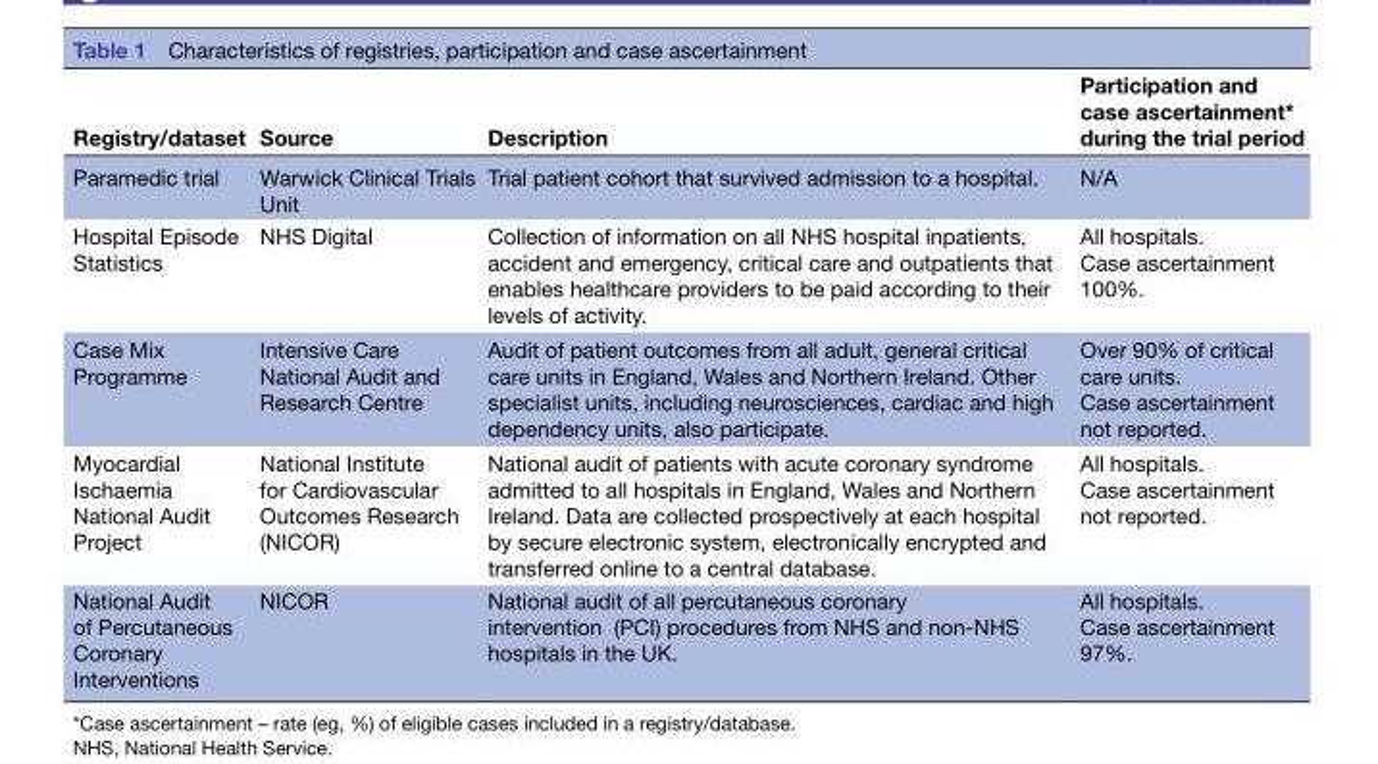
<table><thead><tr><td>Registry/dataset</td><td>Source</td><td>Description</td><td>Participation and case ascertainment* during the trial period</td></tr></thead><tbody><tr><td>Paramedic trial</td><td>Warwick Clinical Trials Unit</td><td>Trial patient cohort that survived admission to a hospital.</td><td>N/A</td></tr><tr><td>Hospital Episode Statistics</td><td>NHS Digital</td><td>Collection of information on all NHS hospital inpatients, accident and emergency, critical care and outpatients that enables healthcare providers to be paid according to their levels of activity.</td><td>All hospitals. Case ascertainment 100%.</td></tr><tr><td>Case Mix Programme</td><td>Intensive Care National Audit and Research Centre</td><td>Audit of patient outcomes from all adult, general critical care units in England, Wales and Northern Ireland. Other specialist units, including neurosciences, cardiac and high dependency units, also participate.</td><td>Over 90% of critical care units. Case ascertainment not reported.</td></tr><tr><td>Myocardial Ischaemia National Audit Project</td><td>National Institute for Cardiovascular Outcomes Research (NICOR)</td><td>National audit of patients with acute coronary syndrome admitted to all hospitals in England, Wales and Northern Ireland. Data are collected prospectively at each hospital by secure electronic system, electronically encrypted and transferred online to a central database.</td><td>All hospitals. Case ascertainment not reported.</td></tr><tr><td>National Audit of Percutaneous Coronary Interventions</td><td>NICOR</td><td>National audit of all percutaneous coronary intervention (PCI) procedures from NHS and non-NHS hospitals in the UK.</td><td>All hospitals. Case ascertainment 97%.</td></tr></tbody></table>